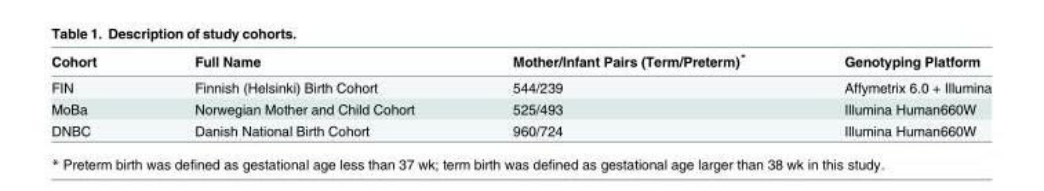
<table><thead><tr><td>Cohort</td><td>Full Name</td><td>Mother/Infant Pairs (Term/Preterm)*</td><td>Genotyping Platform</td></tr></thead><tbody><tr><td>FIN</td><td>Finnish (Helsinki) Birth Cohort</td><td>544/239</td><td>Affymetrix 6.0 + Illumina</td></tr><tr><td>MoBa</td><td>Norwegian Mother and Child Cohort</td><td>525/493</td><td>Illumina Human660W</td></tr><tr><td>DNBC</td><td>Danish National Birth Cohort</td><td>960/724</td><td>Illumina Human660W</td></tr></tbody></table>